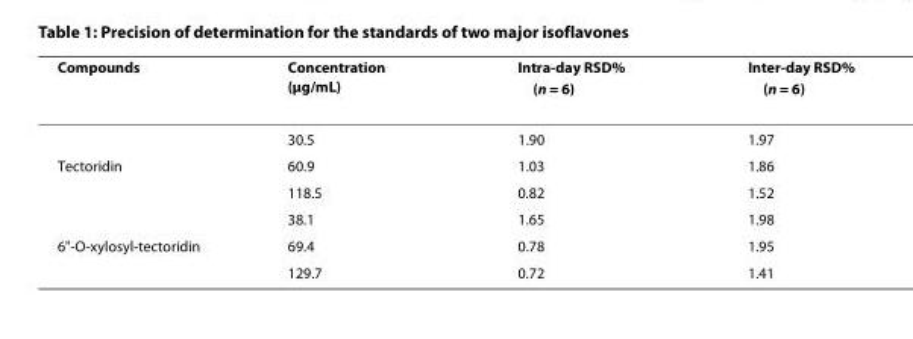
<table><thead><tr><td>Compounds</td><td>Concentration (μg/mL)</td><td>Intra-day RSD% (n = 6)</td><td>Inter-day RSD% (n = 6)</td></tr></thead><tbody><tr><td></td><td>30.5</td><td>1.90</td><td>1.97</td></tr><tr><td rowspan="3">Tectoridin</td><td>60.9</td><td>1.03</td><td>1.86</td></tr><tr><td>118.5</td><td>0.82</td><td>1.52</td></tr><tr><td>38.1</td><td>1.65</td><td>1.98</td></tr><tr><td rowspan="2">6&quot;-O-xylosyl-tectoridin</td><td>69.4</td><td>0.78</td><td>1.95</td></tr><tr><td>129.7</td><td>0.72</td><td>1.41</td></tr></tbody></table>